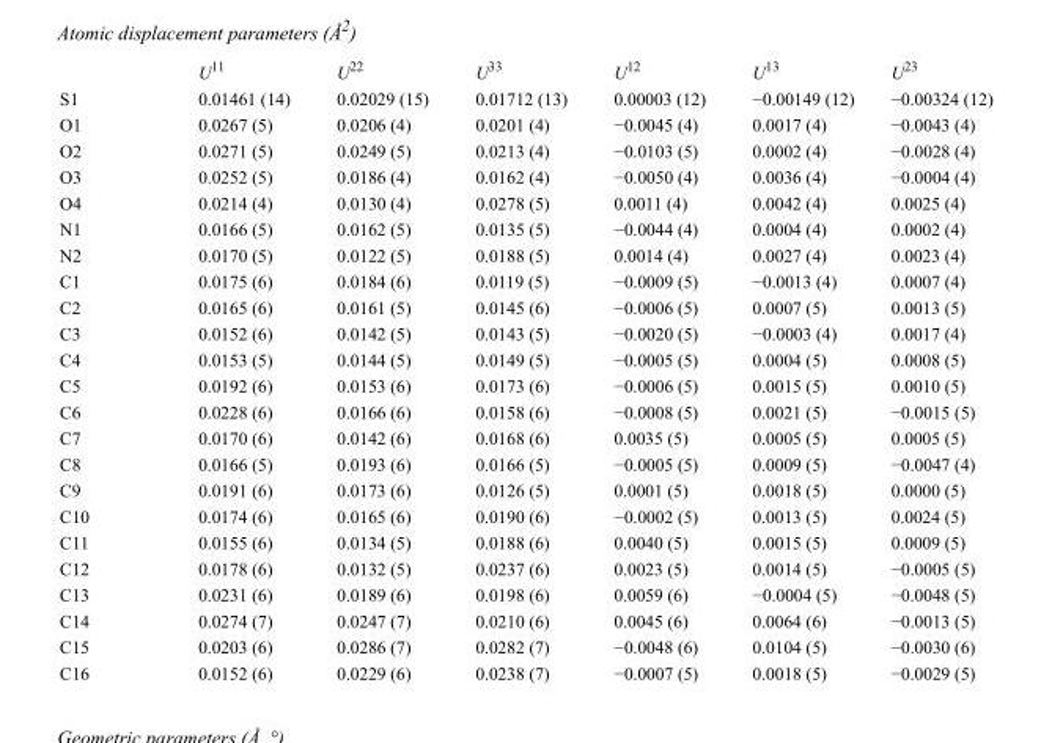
<table><thead><tr><td></td><td>U<sup>11</sup></td><td>U<sup>22</sup></td><td>U<sup>33</sup></td><td>U<sup>12</sup></td><td>U<sup>13</sup></td><td>U<sup>23</sup></td></tr></thead><tbody><tr><td>S1</td><td>0.01461 (14)</td><td>0.02029 (15)</td><td>0.01712 (13)</td><td>0.00003 (12)</td><td>−0.00149 (12)</td><td>−0.00324 (12)</td></tr><tr><td>O1</td><td>0.0267 (5)</td><td>0.0206 (4)</td><td>0.0201 (4)</td><td>−0.0045 (4)</td><td>0.0017 (4)</td><td>−0.0043 (4)</td></tr><tr><td>O2</td><td>0.0271 (5)</td><td>0.0249 (5)</td><td>0.0213 (4)</td><td>−0.0103 (5)</td><td>0.0002 (4)</td><td>−0.0028 (4)</td></tr><tr><td>O3</td><td>0.0252 (5)</td><td>0.0186 (4)</td><td>0.0162 (4)</td><td>−0.0050 (4)</td><td>0.0036 (4)</td><td>−0.0004 (4)</td></tr><tr><td>O4</td><td>0.0214 (4)</td><td>0.0130 (4)</td><td>0.0278 (5)</td><td>0.0011 (4)</td><td>0.0042 (4)</td><td>0.0025 (4)</td></tr><tr><td>N1</td><td>0.0166 (5)</td><td>0.0162 (5)</td><td>0.0135 (5)</td><td>−0.0044 (4)</td><td>0.0004 (4)</td><td>0.0002 (4)</td></tr><tr><td>N2</td><td>0.0170 (5)</td><td>0.0122 (5)</td><td>0.0188 (5)</td><td>0.0014 (4)</td><td>0.0027 (4)</td><td>0.0023 (4)</td></tr><tr><td>C1</td><td>0.0175 (6)</td><td>0.0184 (6)</td><td>0.0119 (5)</td><td>−0.0009 (5)</td><td>−0.0013 (4)</td><td>0.0007 (4)</td></tr><tr><td>C2</td><td>0.0165 (6)</td><td>0.0161 (5)</td><td>0.0145 (6)</td><td>−0.0006 (5)</td><td>0.0007 (5)</td><td>0.0013 (5)</td></tr><tr><td>C3</td><td>0.0152 (6)</td><td>0.0142 (5)</td><td>0.0143 (5)</td><td>−0.0020 (5)</td><td>−0.0003 (4)</td><td>0.0017 (4)</td></tr><tr><td>C4</td><td>0.0153 (5)</td><td>0.0144 (5)</td><td>0.0149 (5)</td><td>−0.0005 (5)</td><td>0.0004 (5)</td><td>0.0008 (5)</td></tr><tr><td>C5</td><td>0.0192 (6)</td><td>0.0153 (6)</td><td>0.0173 (6)</td><td>−0.0006 (5)</td><td>0.0015 (5)</td><td>0.0010 (5)</td></tr><tr><td>C6</td><td>0.0228 (6)</td><td>0.0166 (6)</td><td>0.0158 (6)</td><td>−0.0008 (5)</td><td>0.0021 (5)</td><td>−0.0015 (5)</td></tr><tr><td>C7</td><td>0.0170 (6)</td><td>0.0142 (6)</td><td>0.0168 (6)</td><td>0.0035 (5)</td><td>0.0005 (5)</td><td>0.0005 (5)</td></tr><tr><td>C8</td><td>0.0166 (5)</td><td>0.0193 (6)</td><td>0.0166 (5)</td><td>−0.0005 (5)</td><td>0.0009 (5)</td><td>−0.0047 (4)</td></tr><tr><td>C9</td><td>0.0191 (6)</td><td>0.0173 (6)</td><td>0.0126 (5)</td><td>0.0001 (5)</td><td>0.0018 (5)</td><td>0.0000 (5)</td></tr><tr><td>C10</td><td>0.0174 (6)</td><td>0.0165 (6)</td><td>0.0190 (6)</td><td>−0.0002 (5)</td><td>0.0013 (5)</td><td>0.0024 (5)</td></tr><tr><td>C11</td><td>0.0155 (6)</td><td>0.0134 (5)</td><td>0.0188 (6)</td><td>0.0040 (5)</td><td>0.0015 (5)</td><td>0.0009 (5)</td></tr><tr><td>C12</td><td>0.0178 (6)</td><td>0.0132 (5)</td><td>0.0237 (6)</td><td>0.0023 (5)</td><td>0.0014 (5)</td><td>−0.0005 (5)</td></tr><tr><td>C13</td><td>0.0231 (6)</td><td>0.0189 (6)</td><td>0.0198 (6)</td><td>0.0059 (6)</td><td>−0.0004 (5)</td><td>−0.0048 (5)</td></tr><tr><td>C14</td><td>0.0274 (7)</td><td>0.0247 (7)</td><td>0.0210 (6)</td><td>0.0045 (6)</td><td>0.0064 (6)</td><td>−0.0013 (5)</td></tr><tr><td>C15</td><td>0.0203 (6)</td><td>0.0286 (7)</td><td>0.0282 (7)</td><td>−0.0048 (6)</td><td>0.0104 (5)</td><td>−0.0030 (6)</td></tr><tr><td>C16</td><td>0.0152 (6)</td><td>0.0229 (6)</td><td>0.0238 (7)</td><td>−0.0007 (5)</td><td>0.0018 (5)</td><td>−0.0029 (5)</td></tr></tbody></table>